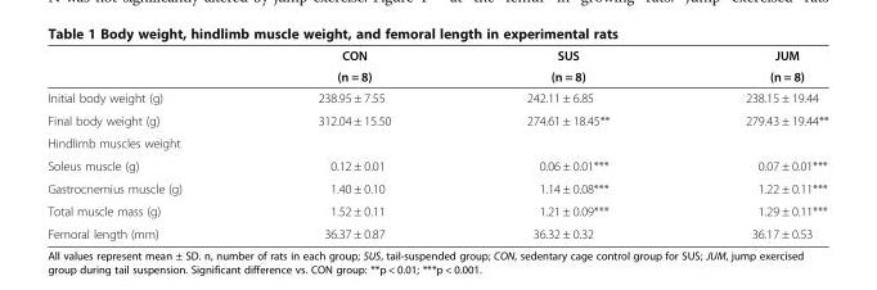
<table><thead><tr><td rowspan="2"></td><td rowspan="2">CON (n = 8)</td><td rowspan="2">SUS (n = 8)</td><td rowspan="2">JUM (n = 8)</td></tr><tr></tr></thead><tbody><tr><td>Initial body weight (g)</td><td>238.95 ± 7.55</td><td>242.11 ± 6.85</td><td>238.15 ± 19.44</td></tr><tr><td>Final body weight (g)</td><td>312.04 ± 15.50</td><td>274.61 ± 18.45**</td><td>279.43 ± 19.44**</td></tr><tr><td colspan="4">Hindlimb muscles weight</td></tr><tr><td>Soleus muscle (g)</td><td>0.12 ± 0.01</td><td>0.06 ± 0.01***</td><td>0.07 ± 0.01***</td></tr><tr><td>Gastrocnemius muscle (g)</td><td>1.40 ± 0.10</td><td>1.14 ± 0.08***</td><td>1.22 ± 0.11***</td></tr><tr><td>Total muscle mass (g)</td><td>1.52 ± 0.11</td><td>1.21 ± 0.09***</td><td>1.29 ± 0.11***</td></tr><tr><td>Femoral length (mm)</td><td>36.37 ± 0.87</td><td>36.32 ± 0.32</td><td>36.17 ± 0.53</td></tr></tbody></table>